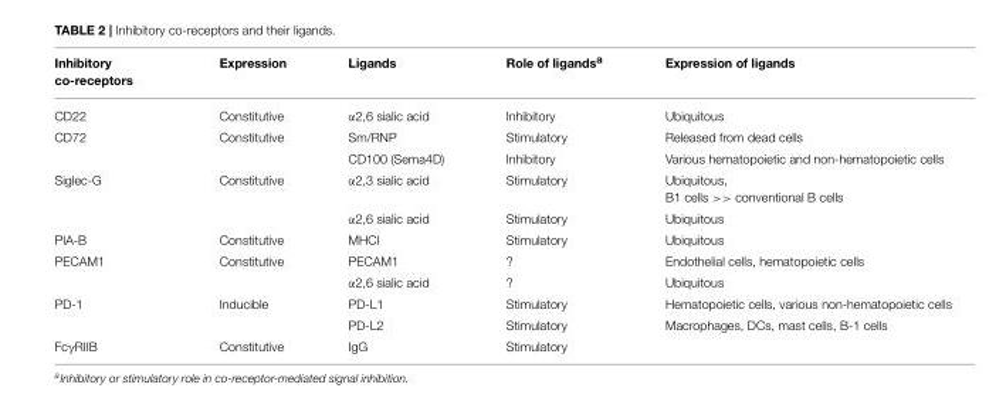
<table><thead><tr><td>Inhibitory co-receptors</td><td>Expression</td><td>Ligands</td><td>Role of ligands<sup>a</sup></td><td>Expression of ligands</td></tr></thead><tbody><tr><td>CD22</td><td>Constitutive</td><td>α2,6 sialic acid</td><td>Inhibitory</td><td>Ubiquitous</td></tr><tr><td rowspan="2">CD72</td><td>Constitutive</td><td>Sm/RNP</td><td>Stimulatory</td><td>Released from dead cells</td></tr><tr><td></td><td>CD100 (Sema4D)</td><td>Inhibitory</td><td>Various hematopoietic and non-hematopoietic cells</td></tr><tr><td rowspan="2">Siglec-G</td><td>Constitutive</td><td>α2,3 sialic acid</td><td>Stimulatory</td><td>Ubiquitous, B1 cells &gt;&gt; conventional B cells</td></tr><tr><td></td><td>α2,6 sialic acid</td><td>Stimulatory</td><td>Ubiquitous</td></tr><tr><td>PIA-B</td><td>Constitutive</td><td>MHCI</td><td>Stimulatory</td><td>Ubiquitous</td></tr><tr><td rowspan="2">PECAM1</td><td>Constitutive</td><td>PECAM1</td><td>?</td><td>Endothelial cells, hematopoietic cells</td></tr><tr><td></td><td>α2,6 sialic acid</td><td>?</td><td>Ubiquitous</td></tr><tr><td rowspan="2">PD-1</td><td>Inducible</td><td>PD-L1</td><td>Stimulatory</td><td>Hematopoietic cells, various non-hematopoietic cells</td></tr><tr><td></td><td>PD-L2</td><td>Stimulatory</td><td>Macrophages, DCs, mast cells, B-1 cells</td></tr><tr><td>FcγRIIB</td><td>Constitutive</td><td>IgG</td><td>Stimulatory</td><td></td></tr></tbody></table>